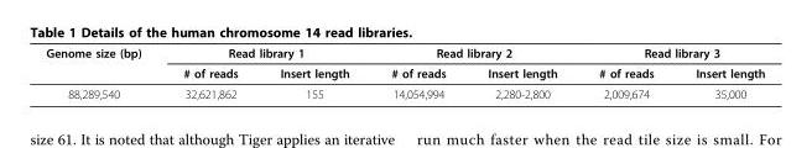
<table><thead><tr><td rowspan="2">Genome size (bp)</td><td colspan="2">Read library 1</td><td colspan="2">Read library 2</td><td colspan="2">Read library 3</td></tr><tr><td># of reads</td><td>Insert length</td><td># of reads</td><td>Insert length</td><td># of reads</td><td>Insert length</td></tr></thead><tbody><tr><td>88,289,540</td><td>32,621,862</td><td>155</td><td>14,054,994</td><td>2,280-2,800</td><td>2,009,674</td><td>35,000</td></tr></tbody></table>